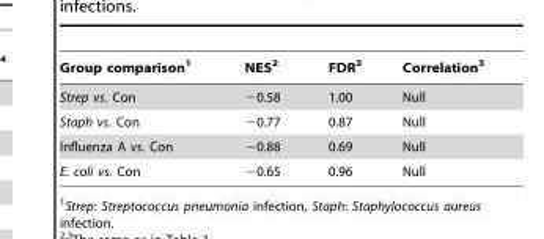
<table><thead><tr><td>Group comparison<sup>1</sup></td><td>NES<sup>2</sup></td><td>FDR<sup>3</sup></td><td>Correlation<sup>3</sup></td></tr></thead><tbody><tr><td>Strep vs. Con</td><td>−0.58</td><td>1.00</td><td>Null</td></tr><tr><td>Staph vs. Con</td><td>−0.77</td><td>0.87</td><td>Null</td></tr><tr><td>Influenza A vs. Con</td><td>−0.88</td><td>0.69</td><td>Null</td></tr><tr><td>E. coli vs. Con</td><td>−0.65</td><td>0.96</td><td>Null</td></tr></tbody></table>